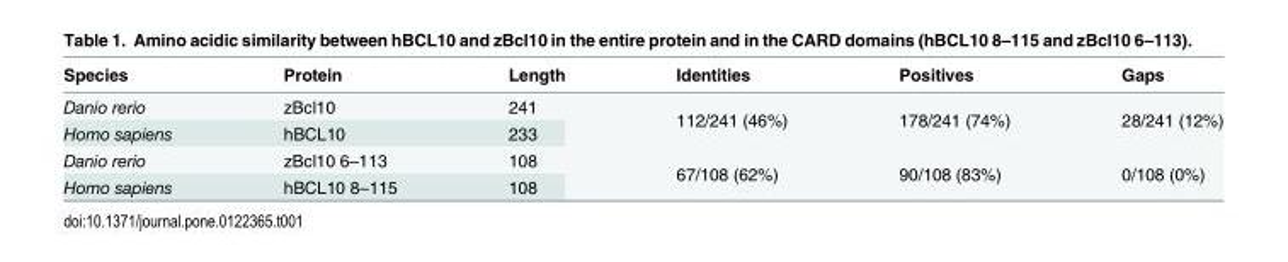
<table><thead><tr><td>Species</td><td>Protein</td><td>Length</td><td>Identities</td><td>Positives</td><td>Gaps</td></tr></thead><tbody><tr><td>Danio rerio</td><td>zBcl10</td><td>241</td><td rowspan="2">112/241 (46%)</td><td rowspan="2">178/241 (74%)</td><td rowspan="2">28/241 (12%)</td></tr><tr><td>Homo sapiens</td><td>hBCL10</td><td>233</td></tr><tr><td>Danio rerio</td><td>zBcl10 6–113</td><td>108</td><td rowspan="2">67/108 (62%)</td><td rowspan="2">90/108 (83%)</td><td rowspan="2">0/108 (0%)</td></tr><tr><td>Homo sapiens</td><td>hBCL10 8–115</td><td>108</td></tr></tbody></table>